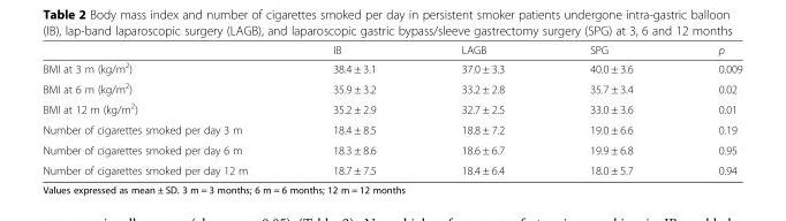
<table><thead><tr><td></td><td>IB</td><td>LAGB</td><td>SPG</td><td>p</td></tr></thead><tbody><tr><td>BMI at 3 m (kg/m<sup>2</sup>)</td><td>38.4 ± 3.1</td><td>37.0 ± 3.3</td><td>40.0 ± 3.6</td><td>0.009</td></tr><tr><td>BMI at 6 m (kg/m<sup>2</sup>)</td><td>35.9 ± 3.2</td><td>33.2 ± 2.8</td><td>35.7 ± 3.4</td><td>0.02</td></tr><tr><td>BMI at 12 m (kg/m<sup>2</sup>)</td><td>35.2 ± 2.9</td><td>32.7 ± 2.5</td><td>33.0 ± 3.6</td><td>0.01</td></tr><tr><td>Number of cigarettes smoked per day 3 m</td><td>18.4 ± 8.5</td><td>18.8 ± 7.2</td><td>19.0 ± 6.6</td><td>0.19</td></tr><tr><td>Number of cigarettes smoked per day 6 m</td><td>18.3 ± 8.6</td><td>18.6 ± 6.7</td><td>19.9 ± 6.8</td><td>0.95</td></tr><tr><td>Number of cigarettes smoked per day 12 m</td><td>18.7 ± 7.5</td><td>18.4 ± 6.4</td><td>18.0 ± 5.7</td><td>0.94</td></tr></tbody></table>